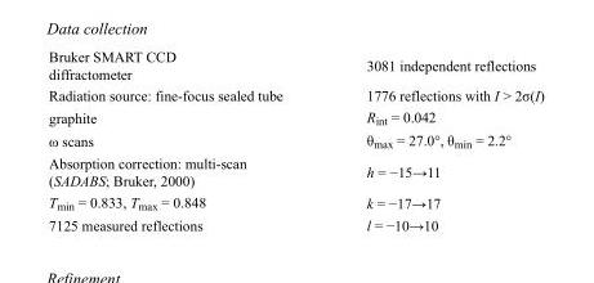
<table><tbody><tr><td>Bruker SMART CCD diffractometer</td><td>3081 independent reflections</td></tr><tr><td>Radiation source: fine-focus sealed tube</td><td>1776 reflections with I &gt; 2σ(I)</td></tr><tr><td>graphite</td><td>R<sub>int</sub> = 0.042</td></tr><tr><td>ω scans</td><td>θ<sub>max</sub> = 27.0°, θ<sub>min</sub> = 2.2°</td></tr><tr><td>Absorption correction: multi-scan (SADABS; Bruker, 2000)</td><td>h = −15→11</td></tr><tr><td>T<sub>min</sub> = 0.833, T<sub>max</sub> = 0.848</td><td>k = −17→17</td></tr><tr><td>7125 measured reflections</td><td>l = −10→10</td></tr></tbody></table>